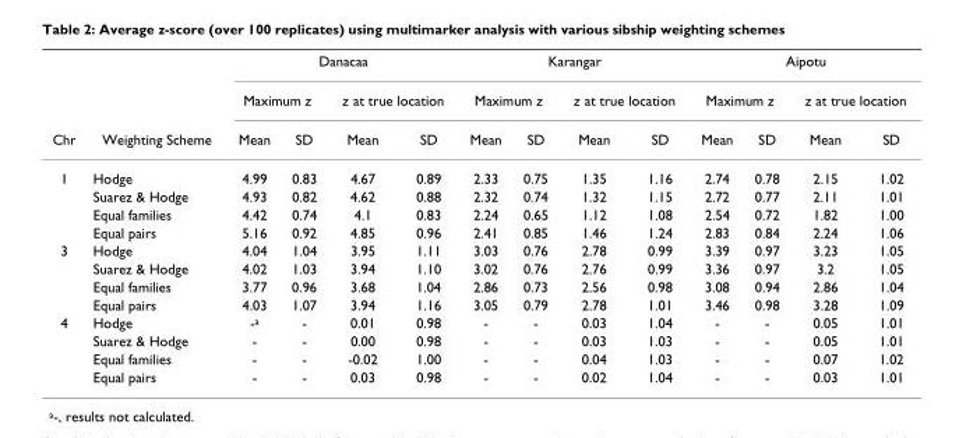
<table><thead><tr><td rowspan="3">Chr</td><td rowspan="3">Weighting Scheme</td><td colspan="4">Danacaa</td><td colspan="4">Karangar</td><td colspan="4">Aipotu</td></tr><tr><td colspan="2">Maximum z</td><td colspan="2">z at true location</td><td colspan="2">Maximum z</td><td colspan="2">z at true location</td><td colspan="2">Maximum z</td><td colspan="2">z at true location</td></tr><tr><td>Mean</td><td>SD</td><td>Mean</td><td>SD</td><td>Mean</td><td>SD</td><td>Mean</td><td>SD</td><td>Mean</td><td>SD</td><td>Mean</td><td>SD</td></tr></thead><tbody><tr><td rowspan="4">1</td><td>Hodge</td><td>4.99</td><td>0.83</td><td>4.67</td><td>0.89</td><td>2.33</td><td>0.75</td><td>1.35</td><td>1.16</td><td>2.74</td><td>0.78</td><td>2.15</td><td>1.02</td></tr><tr><td>Suarez &amp; Hodge</td><td>4.93</td><td>0.82</td><td>4.62</td><td>0.88</td><td>2.32</td><td>0.74</td><td>1.32</td><td>1.15</td><td>2.72</td><td>0.77</td><td>2.11</td><td>1.01</td></tr><tr><td>Equal families</td><td>4.42</td><td>0.74</td><td>4.1</td><td>0.83</td><td>2.24</td><td>0.65</td><td>1.12</td><td>1.08</td><td>2.54</td><td>0.72</td><td>1.82</td><td>1.00</td></tr><tr><td>Equal pairs</td><td>5.16</td><td>0.92</td><td>4.85</td><td>0.96</td><td>2.41</td><td>0.85</td><td>1.46</td><td>1.24</td><td>2.83</td><td>0.84</td><td>2.24</td><td>1.06</td></tr><tr><td rowspan="4">3</td><td>Hodge</td><td>4.04</td><td>1.04</td><td>3.95</td><td>1.11</td><td>3.03</td><td>0.76</td><td>2.78</td><td>0.99</td><td>3.39</td><td>0.97</td><td>3.23</td><td>1.05</td></tr><tr><td>Suarez &amp; Hodge</td><td>4.02</td><td>1.03</td><td>3.94</td><td>1.10</td><td>3.02</td><td>0.76</td><td>2.76</td><td>0.99</td><td>3.36</td><td>0.97</td><td>3.2</td><td>1.05</td></tr><tr><td>Equal families</td><td>3.77</td><td>0.96</td><td>3.68</td><td>1.04</td><td>2.86</td><td>0.73</td><td>2.56</td><td>0.98</td><td>3.08</td><td>0.94</td><td>2.86</td><td>1.04</td></tr><tr><td>Equal pairs</td><td>4.03</td><td>1.07</td><td>3.94</td><td>1.16</td><td>3.05</td><td>0.79</td><td>2.78</td><td>1.01</td><td>3.46</td><td>0.98</td><td>3.28</td><td>1.09</td></tr><tr><td rowspan="4">4</td><td>Hodge</td><td>-a</td><td>-</td><td>0.01</td><td>0.98</td><td>-</td><td>-</td><td>0.03</td><td>1.04</td><td>-</td><td>-</td><td>0.05</td><td>1.01</td></tr><tr><td>Suarez &amp; Hodge</td><td>-</td><td>-</td><td>0.00</td><td>0.98</td><td>-</td><td>-</td><td>0.03</td><td>1.03</td><td>-</td><td>-</td><td>0.05</td><td>1.01</td></tr><tr><td>Equal families</td><td>-</td><td>-</td><td>-0.02</td><td>1.00</td><td>-</td><td>-</td><td>0.04</td><td>1.03</td><td>-</td><td>-</td><td>0.07</td><td>1.02</td></tr><tr><td>Equal pairs</td><td>-</td><td>-</td><td>0.03</td><td>0.98</td><td>-</td><td>-</td><td>0.02</td><td>1.04</td><td>-</td><td>-</td><td>0.03</td><td>1.01</td></tr></tbody></table>